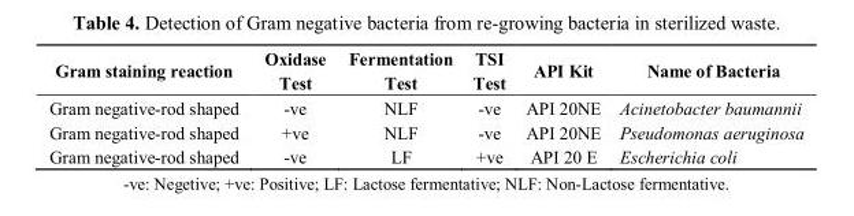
<table><thead><tr><td>Gram staining reaction</td><td>Oxidase Test</td><td>Fermentation Test</td><td>TSI Test</td><td>API Kit</td><td>Name of Bacteria</td></tr></thead><tbody><tr><td>Gram negative-rod shaped</td><td>-ve</td><td>NLF</td><td>-ve</td><td>API 20NE</td><td>Acinetobacter baumannii</td></tr><tr><td>Gram negative-rod shaped</td><td>+ve</td><td>NLF</td><td>-ve</td><td>API 20NE</td><td>Pseudomonas aeruginosa</td></tr><tr><td>Gram negative-rod shaped</td><td>-ve</td><td>LF</td><td>+ve</td><td>API 20 E</td><td>Escherichia coli</td></tr></tbody></table>